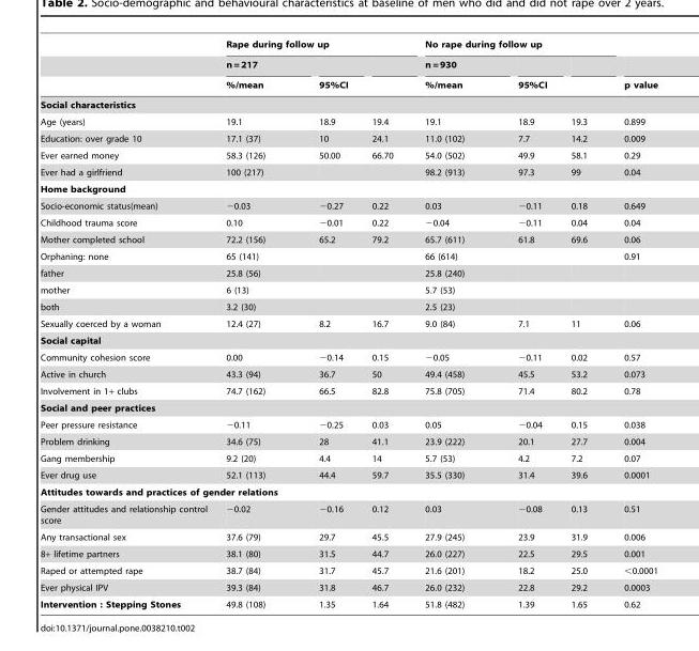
<table><thead><tr><td rowspan="3"></td><td colspan="3">Rape during follow up</td><td colspan="3">No rape during follow up</td><td rowspan="3">p value</td></tr><tr><td rowspan="2">n = 217 %/mean</td><td></td><td></td><td rowspan="2">n = 930 %/mean</td><td></td><td></td></tr><tr><td colspan="2">95%CI</td><td colspan="2">95%CI</td></tr></thead><tbody><tr><td colspan="8">Social characteristics</td></tr><tr><td>Age (years)</td><td>19.1</td><td>18.9</td><td>19.4</td><td>19.1</td><td>18.9</td><td>19.3</td><td>0.899</td></tr><tr><td>Education: over grade 10</td><td>17.1 (37)</td><td>10</td><td>24.1</td><td>11.0 (102)</td><td>7.7</td><td>14.2</td><td>0.009</td></tr><tr><td>Ever earned money</td><td>58.3 (126)</td><td>50.00</td><td>66.70</td><td>54.0 (502)</td><td>49.9</td><td>58.1</td><td>0.29</td></tr><tr><td>Ever had a girlfriend</td><td>100 (217)</td><td></td><td></td><td>98.2 (913)</td><td>97.3</td><td>99</td><td>0.04</td></tr><tr><td colspan="8">Home background</td></tr><tr><td>Socio-economic status(mean)</td><td>−0.03</td><td>−0.27</td><td>0.22</td><td>0.03</td><td>−0.11</td><td>0.18</td><td>0.649</td></tr><tr><td>Childhood trauma score</td><td>0.10</td><td>−0.01</td><td>0.22</td><td>−0.04</td><td>−0.11</td><td>0.04</td><td>0.04</td></tr><tr><td>Mother completed school</td><td>72.2 (156)</td><td>65.2</td><td>79.2</td><td>65.7 (611)</td><td>61.8</td><td>69.6</td><td>0.06</td></tr><tr><td>Orphaning: none</td><td>65 (141)</td><td></td><td></td><td>66 (614)</td><td></td><td></td><td>0.91</td></tr><tr><td>father</td><td>25.8 (56)</td><td></td><td></td><td>25.8 (240)</td><td></td><td></td><td></td></tr><tr><td>mother</td><td>6 (13)</td><td></td><td></td><td>5.7 (53)</td><td></td><td></td><td></td></tr><tr><td>both</td><td>3.2 (30)</td><td></td><td></td><td>2.5 (23)</td><td></td><td></td><td></td></tr><tr><td>Sexually coerced by a woman</td><td>12.4 (27)</td><td>8.2</td><td>16.7</td><td>9.0 (84)</td><td>7.1</td><td>11</td><td>0.06</td></tr><tr><td colspan="8">Social capital</td></tr><tr><td>Community cohesion score</td><td>0.00</td><td>−0.14</td><td>0.15</td><td>−0.05</td><td>−0.11</td><td>0.02</td><td>0.57</td></tr><tr><td>Active in church</td><td>43.3 (94)</td><td>36.7</td><td>50</td><td>49.4 (458)</td><td>45.5</td><td>53.2</td><td>0.073</td></tr><tr><td>Involvement in 1+ clubs</td><td>74.7 (162)</td><td>66.5</td><td>82.8</td><td>75.8 (705)</td><td>71.4</td><td>80.2</td><td>0.78</td></tr><tr><td colspan="8">Social and peer practices</td></tr><tr><td>Peer pressure resistance</td><td>−0.11</td><td>−0.25</td><td>0.03</td><td>0.05</td><td>−0.04</td><td>0.15</td><td>0.038</td></tr><tr><td>Problem drinking</td><td>34.6 (75)</td><td>28</td><td>41.1</td><td>23.9 (222)</td><td>20.1</td><td>27.7</td><td>0.004</td></tr><tr><td>Gang membership</td><td>9.2 (20)</td><td>4.4</td><td>14</td><td>5.7 (53)</td><td>4.2</td><td>7.2</td><td>0.07</td></tr><tr><td>Ever drug use</td><td>52.1 (113)</td><td>44.4</td><td>59.7</td><td>35.5 (330)</td><td>31.4</td><td>39.6</td><td>0.0001</td></tr><tr><td colspan="8">Attitudes towards and practices of gender relations</td></tr><tr><td>Gender attitudes and relationship control score</td><td>−0.02</td><td>−0.16</td><td>0.12</td><td>0.03</td><td>−0.08</td><td>0.13</td><td>0.51</td></tr><tr><td>Any transactional sex</td><td>37.6 (79)</td><td>29.7</td><td>45.5</td><td>27.9 (245)</td><td>23.9</td><td>31.9</td><td>0.006</td></tr><tr><td>8+ lifetime partners</td><td>38.1 (80)</td><td>31.5</td><td>44.7</td><td>26.0 (227)</td><td>22.5</td><td>29.5</td><td>0.001</td></tr><tr><td>Raped or attempted rape</td><td>38.7 (84)</td><td>31.7</td><td>45.7</td><td>21.6 (201)</td><td>18.2</td><td>25.0</td><td>&lt;0.0001</td></tr><tr><td>Ever physical IPV</td><td>39.3 (84)</td><td>31.8</td><td>46.7</td><td>26.0 (232)</td><td>22.8</td><td>29.2</td><td>0.0003</td></tr><tr><td>Intervention : Stepping Stones</td><td>49.8 (108)</td><td>1.35</td><td>1.64</td><td>51.8 (482)</td><td>1.39</td><td>1.65</td><td>0.62</td></tr></tbody></table>